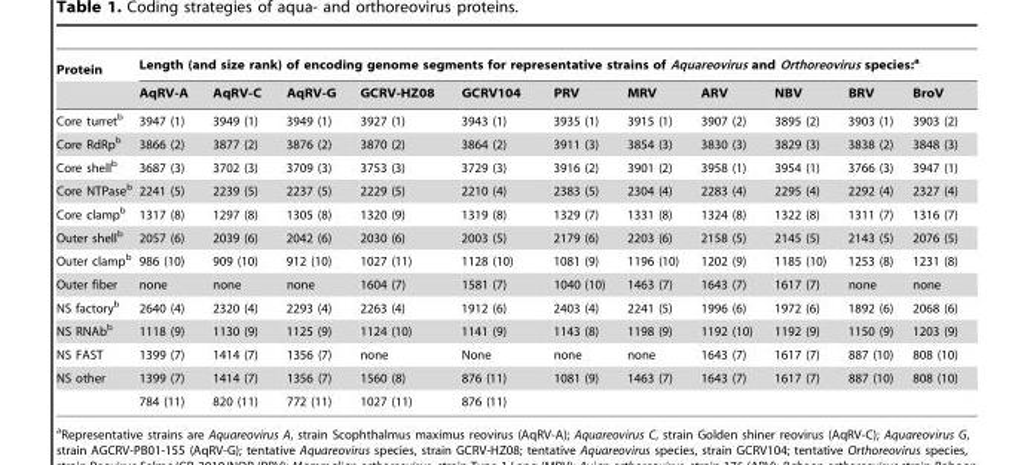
<table><thead><tr><td rowspan="2">Protein</td><td colspan="11">Length (and size rank) of encoding genome segments for representative strains of Aquareovirus and Orthoreovirus species:<sup>a</sup></td></tr><tr><td>AqRV-A</td><td>AqRV-C</td><td>AqRV-G</td><td>GCRV-HZ08</td><td>GCRV104</td><td>PRV</td><td>MRV</td><td>ARV</td><td>NBV</td><td>BRV</td><td>BroV</td></tr></thead><tbody><tr><td>Core turret<sup>b</sup></td><td>3947 (1)</td><td>3949 (1)</td><td>3949 (1)</td><td>3927 (1)</td><td>3943 (1)</td><td>3935 (1)</td><td>3915 (1)</td><td>3907 (2)</td><td>3895 (2)</td><td>3903 (1)</td><td>3903 (2)</td></tr><tr><td>Core RdRp<sup>b</sup></td><td>3866 (2)</td><td>3877 (2)</td><td>3876 (2)</td><td>3870 (2)</td><td>3864 (2)</td><td>3911 (3)</td><td>3854 (3)</td><td>3830 (3)</td><td>3829 (3)</td><td>3838 (2)</td><td>3848 (3)</td></tr><tr><td>Core shell<sup>b</sup></td><td>3687 (3)</td><td>3702 (3)</td><td>3709 (3)</td><td>3753 (3)</td><td>3729 (3)</td><td>3916 (2)</td><td>3901 (2)</td><td>3958 (1)</td><td>3954 (1)</td><td>3766 (3)</td><td>3947 (1)</td></tr><tr><td>Core NTPase<sup>b</sup></td><td>2241 (5)</td><td>2239 (5)</td><td>2237 (5)</td><td>2229 (5)</td><td>2210 (4)</td><td>2383 (5)</td><td>2304 (4)</td><td>2283 (4)</td><td>2295 (4)</td><td>2292 (4)</td><td>2327 (4)</td></tr><tr><td>Core clamp<sup>b</sup></td><td>1317 (8)</td><td>1297 (8)</td><td>1305 (8)</td><td>1320 (9)</td><td>1319 (8)</td><td>1329 (7)</td><td>1331 (8)</td><td>1324 (8)</td><td>1322 (8)</td><td>1311 (7)</td><td>1316 (7)</td></tr><tr><td>Outer shell<sup>b</sup></td><td>2057 (6)</td><td>2039 (6)</td><td>2042 (6)</td><td>2030 (6)</td><td>2003 (5)</td><td>2179 (6)</td><td>2203 (6)</td><td>2158 (5)</td><td>2145 (5)</td><td>2143 (5)</td><td>2076 (5)</td></tr><tr><td>Outer clamp<sup>b</sup></td><td>986 (10)</td><td>909 (10)</td><td>912 (10)</td><td>1027 (11)</td><td>1128 (10)</td><td>1081 (9)</td><td>1196 (10)</td><td>1202 (9)</td><td>1185 (10)</td><td>1253 (8)</td><td>1231 (8)</td></tr><tr><td>Outer fiber</td><td>none</td><td>none</td><td>none</td><td>1604 (7)</td><td>1581 (7)</td><td>1040 (10)</td><td>1463 (7)</td><td>1643 (7)</td><td>1617 (7)</td><td>none</td><td>none</td></tr><tr><td>NS factory<sup>b</sup></td><td>2640 (4)</td><td>2320 (4)</td><td>2293 (4)</td><td>2263 (4)</td><td>1912 (6)</td><td>2403 (4)</td><td>2241 (5)</td><td>1996 (6)</td><td>1972 (6)</td><td>1892 (6)</td><td>2068 (6)</td></tr><tr><td>NS RNAb<sup>b</sup></td><td>1118 (9)</td><td>1130 (9)</td><td>1125 (9)</td><td>1124 (10)</td><td>1141 (9)</td><td>1143 (8)</td><td>1198 (9)</td><td>1192 (10)</td><td>1192 (9)</td><td>1150 (9)</td><td>1203 (9)</td></tr><tr><td>NS FAST</td><td>1399 (7)</td><td>1414 (7)</td><td>1356 (7)</td><td>none</td><td>None</td><td>none</td><td>none</td><td>1643 (7)</td><td>1617 (7)</td><td>887 (10)</td><td>808 (10)</td></tr><tr><td rowspan="2">NS other</td><td>1399 (7)</td><td>1414 (7)</td><td>1356 (7)</td><td>1560 (8)</td><td>876 (11)</td><td>1081 (9)</td><td>1463 (7)</td><td>1643 (7)</td><td>1617 (7)</td><td>887 (10)</td><td>808 (10)</td></tr><tr><td>784 (11)</td><td>820 (11)</td><td>772 (11)</td><td>1027 (11)</td><td>876 (11)</td><td></td><td></td><td></td><td></td><td></td><td></td></tr></tbody></table>